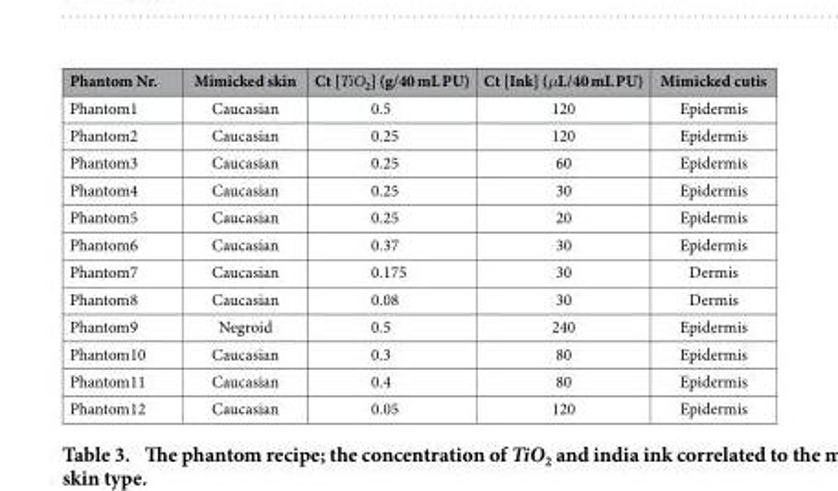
<table><thead><tr><td>Phantom Nr.</td><td>Mimicked skin</td><td>Ct [TiO<sub>2</sub>] (g/40 mL PU)</td><td>Ct [Ink] (μL/40 mL PU)</td><td>Mimicked cutis</td></tr></thead><tbody><tr><td>Phantom1</td><td>Caucasian</td><td>0.5</td><td>120</td><td>Epidermis</td></tr><tr><td>Phantom2</td><td>Caucasian</td><td>0.25</td><td>120</td><td>Epidermis</td></tr><tr><td>Phantom3</td><td>Caucasian</td><td>0.25</td><td>60</td><td>Epidermis</td></tr><tr><td>Phantom4</td><td>Caucasian</td><td>0.25</td><td>30</td><td>Epidermis</td></tr><tr><td>Phantom5</td><td>Caucasian</td><td>0.25</td><td>20</td><td>Epidermis</td></tr><tr><td>Phantom6</td><td>Caucasian</td><td>0.37</td><td>30</td><td>Epidermis</td></tr><tr><td>Phantom7</td><td>Caucasian</td><td>0.175</td><td>30</td><td>Dermis</td></tr><tr><td>Phantom8</td><td>Caucasian</td><td>0.08</td><td>30</td><td>Dermis</td></tr><tr><td>Phantom9</td><td>Negroid</td><td>0.5</td><td>240</td><td>Epidermis</td></tr><tr><td>Phantom10</td><td>Caucasian</td><td>0.3</td><td>80</td><td>Epidermis</td></tr><tr><td>Phantom11</td><td>Caucasian</td><td>0.4</td><td>80</td><td>Epidermis</td></tr><tr><td>Phantom12</td><td>Caucasian</td><td>0.05</td><td>120</td><td>Epidermis</td></tr></tbody></table>